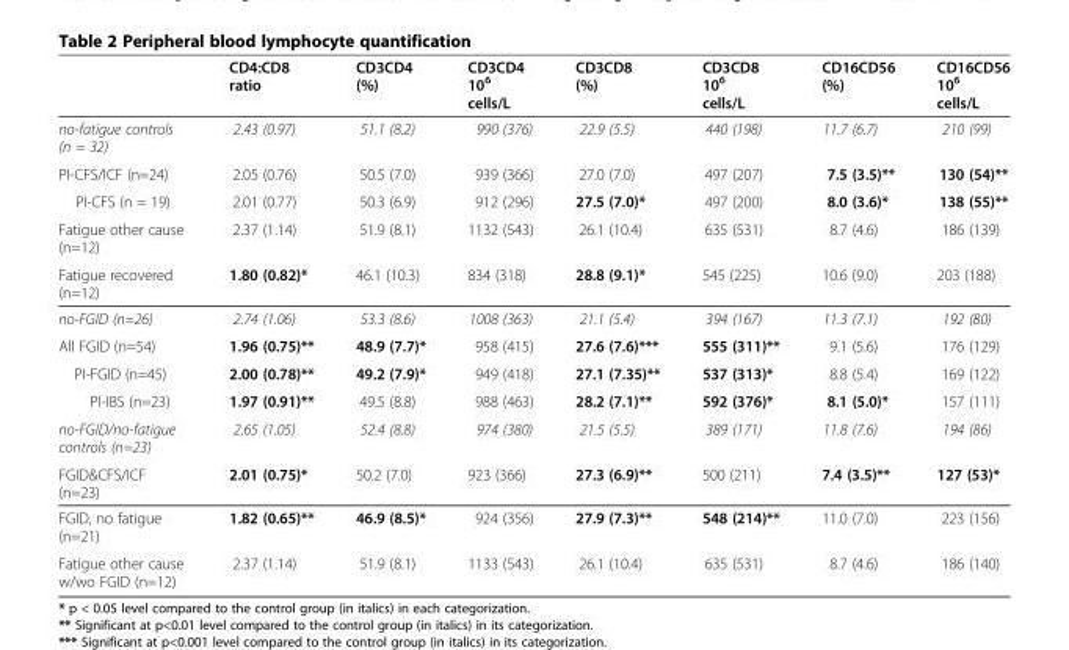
<table><thead><tr><td></td><td>CD4:CD8 ratio</td><td>CD3CD4 (%)</td><td>CD3CD4 10<sup>6</sup> cells/L</td><td>CD3CD8 (%)</td><td>CD3CD8 10<sup>6</sup> cells/L</td><td>CD16CD56 (%)</td><td>CD16CD56 10<sup>6</sup> cells/L</td></tr></thead><tbody><tr><td>no-fatigue controls (n = 32)</td><td>2.43 (0.97)</td><td>51.1 (8.2)</td><td>990 (376)</td><td>22.9 (5.5)</td><td>440 (198)</td><td>11.7 (6.7)</td><td>210 (99)</td></tr><tr><td>PI-CFS/ICF (n=24)</td><td>2.05 (0.76)</td><td>50.5 (7.0)</td><td>939 (366)</td><td>27.0 (7.0)</td><td>497 (207)</td><td>7.5 (3.5)**</td><td>130 (54)**</td></tr><tr><td>PI-CFS (n = 19)</td><td>2.01 (0.77)</td><td>50.3 (6.9)</td><td>912 (296)</td><td>27.5 (7.0)*</td><td>497 (200)</td><td>8.0 (3.6)*</td><td>138 (55)**</td></tr><tr><td>Fatigue other cause (n=12)</td><td>2.37 (1.14)</td><td>51.9 (8.1)</td><td>1132 (543)</td><td>26.1 (10.4)</td><td>635 (531)</td><td>8.7 (4.6)</td><td>186 (139)</td></tr><tr><td>Fatigue recovered (n=12)</td><td>1.80 (0.82)*</td><td>46.1 (10.3)</td><td>834 (318)</td><td>28.8 (9.1)*</td><td>545 (225)</td><td>10.6 (9.0)</td><td>203 (188)</td></tr><tr><td>no-FGID (n=26)</td><td>2.74 (1.06)</td><td>53.3 (8.6)</td><td>1008 (363)</td><td>21.1 (5.4)</td><td>394 (167)</td><td>11.3 (7.1)</td><td>192 (80)</td></tr><tr><td>All FGID (n=54)</td><td>1.96 (0.75)**</td><td>48.9 (7.7)*</td><td>958 (415)</td><td>27.6 (7.6)***</td><td>555 (311)**</td><td>9.1 (5.6)</td><td>176 (129)</td></tr><tr><td>PI-FGID (n=45)</td><td>2.00 (0.78)**</td><td>49.2 (7.9)*</td><td>949 (418)</td><td>27.1 (7.35)**</td><td>537 (313)*</td><td>8.8 (5.4)</td><td>169 (122)</td></tr><tr><td>PI-IBS (n=23)</td><td>1.97 (0.91)**</td><td>49.5 (8.8)</td><td>988 (463)</td><td>28.2 (7.1)**</td><td>592 (376)*</td><td>8.1 (5.0)*</td><td>157 (111)</td></tr><tr><td>no-FGID/no-fatigue controls (n=23)</td><td>2.65 (1.05)</td><td>52.4 (8.8)</td><td>974 (380)</td><td>21.5 (5.5)</td><td>389 (171)</td><td>11.8 (7.6)</td><td>194 (86)</td></tr><tr><td>FGID&amp;CFS/ICF (n=23)</td><td>2.01 (0.75)*</td><td>50.2 (7.0)</td><td>923 (366)</td><td>27.3 (6.9)**</td><td>500 (211)</td><td>7.4 (3.5)**</td><td>127 (53)*</td></tr><tr><td>FGID, no fatigue (n=21)</td><td>1.82 (0.65)**</td><td>46.9 (8.5)*</td><td>924 (356)</td><td>27.9 (7.3)**</td><td>548 (214)**</td><td>11.0 (7.0)</td><td>223 (156)</td></tr><tr><td>Fatigue other cause w/wo FGID (n=12)</td><td>2.37 (1.14)</td><td>51.9 (8.1)</td><td>1133 (543)</td><td>26.1 (10.4)</td><td>635 (531)</td><td>8.7 (4.6)</td><td>186 (140)</td></tr></tbody></table>